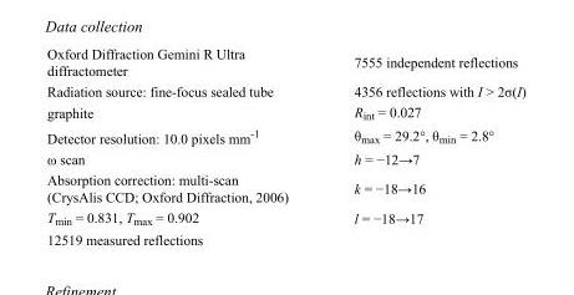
<table><tbody><tr><td>Oxford Diffraction Gemini R Ultra diffractometer</td><td>7555 independent reflections</td></tr><tr><td>Radiation source: fine-focus sealed tube</td><td>4356 reflections with I &gt; 2σ(I)</td></tr><tr><td>graphite</td><td>R<sub>int</sub> = 0.027</td></tr><tr><td>Detector resolution: 10.0 pixels mm<sup>-1</sup></td><td>θ<sub>max</sub> = 29.2°, θ<sub>min</sub> = 2.8°</td></tr><tr><td>ω scan</td><td>h = −12→7</td></tr><tr><td>Absorption correction: multi-scan (CrysAlis CCD; Oxford Diffraction, 2006)</td><td>k = −18→16</td></tr><tr><td>T<sub>min</sub> = 0.831, T<sub>max</sub> = 0.902</td><td>l = −18→17</td></tr><tr><td>12519 measured reflections</td><td></td></tr></tbody></table>